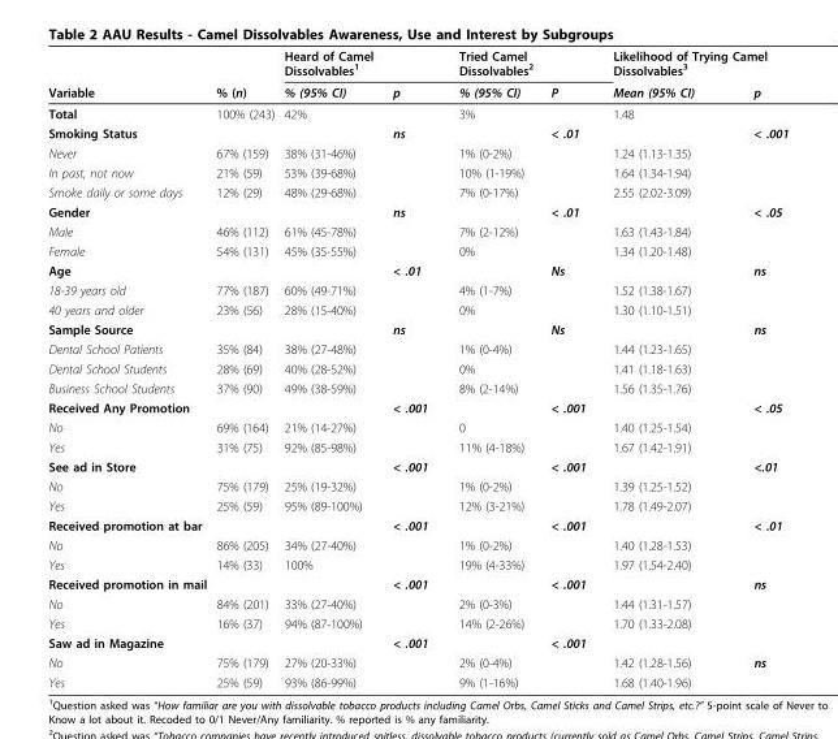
<table><thead><tr><td rowspan="2">Variable</td><td rowspan="2">% (n)</td><td colspan="2">Heard of Camel Dissolvables<sup>1</sup></td><td colspan="2">Tried Camel Dissolvables<sup>2</sup></td><td colspan="2">Likelihood of Trying Camel Dissolvables<sup>3</sup></td></tr><tr><td>% (95% CI)</td><td>p</td><td>% (95% CI)</td><td>P</td><td>Mean (95% CI)</td><td>p</td></tr></thead><tbody><tr><td>Total</td><td>100% (243)</td><td>42%</td><td></td><td>3%</td><td></td><td>1.48</td><td></td></tr><tr><td>Smoking Status</td><td></td><td></td><td>ns</td><td></td><td>&lt; .01</td><td></td><td>&lt; .001</td></tr><tr><td>Never</td><td>67% (159)</td><td>38% (31-46%)</td><td></td><td>1% (0-2%)</td><td></td><td>1.24 (1.13-1.35)</td><td></td></tr><tr><td>In past, not now</td><td>21% (59)</td><td>53% (39-68%)</td><td></td><td>10% (1-19%)</td><td></td><td>1.64 (1.34-1.94)</td><td></td></tr><tr><td>Smoke daily or some days</td><td>12% (29)</td><td>48% (29-68%)</td><td></td><td>7% (0-17%)</td><td></td><td>2.55 (2.02-3.09)</td><td></td></tr><tr><td>Gender</td><td></td><td></td><td>ns</td><td></td><td>&lt; .01</td><td></td><td>&lt; .05</td></tr><tr><td>Male</td><td>46% (112)</td><td>61% (45-78%)</td><td></td><td>7% (2-12%)</td><td></td><td>1.63 (1.43-1.84)</td><td></td></tr><tr><td>Female</td><td>54% (131)</td><td>45% (35-55%)</td><td></td><td>0%</td><td></td><td>1.34 (1.20-1.48)</td><td></td></tr><tr><td>Age</td><td></td><td></td><td>&lt; .01</td><td></td><td>Ns</td><td></td><td>ns</td></tr><tr><td>18-39 years old</td><td>77% (187)</td><td>60% (49-71%)</td><td></td><td>4% (1-7%)</td><td></td><td>1.52 (1.38-1.67)</td><td></td></tr><tr><td>40 years and older</td><td>23% (56)</td><td>28% (15-40%)</td><td></td><td>0%</td><td></td><td>1.30 (1.10-1.51)</td><td></td></tr><tr><td>Sample Source</td><td></td><td></td><td>ns</td><td></td><td>Ns</td><td></td><td>ns</td></tr><tr><td>Dental School Patients</td><td>35% (84)</td><td>38% (27-48%)</td><td></td><td>1% (0-4%)</td><td></td><td>1.44 (1.23-1.65)</td><td></td></tr><tr><td>Dental School Students</td><td>28% (69)</td><td>40% (28-52%)</td><td></td><td>0%</td><td></td><td>1.41 (1.18-1.63)</td><td></td></tr><tr><td>Business School Students</td><td>37% (90)</td><td>49% (38-59%)</td><td></td><td>8% (2-14%)</td><td></td><td>1.56 (1.35-1.76)</td><td></td></tr><tr><td>Received Any Promotion</td><td></td><td></td><td>&lt; .001</td><td></td><td>&lt; .001</td><td></td><td>&lt; .05</td></tr><tr><td>No</td><td>69% (164)</td><td>21% (14-27%)</td><td></td><td>0</td><td></td><td>1.40 (1.25-1.54)</td><td></td></tr><tr><td>Yes</td><td>31% (75)</td><td>92% (85-98%)</td><td></td><td>11% (4-18%)</td><td></td><td>1.67 (1.42-1.91)</td><td></td></tr><tr><td>See ad in Store</td><td></td><td></td><td>&lt; .001</td><td></td><td>&lt; .001</td><td></td><td>&lt;.01</td></tr><tr><td>No</td><td>75% (179)</td><td>25% (19-32%)</td><td></td><td>1% (0-2%)</td><td></td><td>1.39 (1.25-1.52)</td><td></td></tr><tr><td>Yes</td><td>25% (59)</td><td>95% (89-100%)</td><td></td><td>12% (3-21%)</td><td></td><td>1.78 (1.49-2.07)</td><td></td></tr><tr><td>Received promotion at bar</td><td></td><td></td><td>&lt; .001</td><td></td><td>&lt; .001</td><td></td><td>&lt; .01</td></tr><tr><td>No</td><td>86% (205)</td><td>34% (27-40%)</td><td></td><td>1% (0-2%)</td><td></td><td>1.40 (1.28-1.53)</td><td></td></tr><tr><td>Yes</td><td>14% (33)</td><td>100%</td><td></td><td>19% (4-33%)</td><td></td><td>1.97 (1.54-2.40)</td><td></td></tr><tr><td>Received promotion in mail</td><td></td><td></td><td>&lt; .001</td><td></td><td>&lt; .001</td><td></td><td>ns</td></tr><tr><td>No</td><td>84% (201)</td><td>33% (27-40%)</td><td></td><td>2% (0-3%)</td><td></td><td>1.44 (1.31-1.57)</td><td></td></tr><tr><td>Yes</td><td>16% (37)</td><td>94% (87-100%)</td><td></td><td>14% (2-26%)</td><td></td><td>1.70 (1.33-2.08)</td><td></td></tr><tr><td>Saw ad in Magazine</td><td></td><td></td><td>&lt; .001</td><td></td><td>&lt; .001</td><td></td><td></td></tr><tr><td>No</td><td>75% (179)</td><td>27% (20-33%)</td><td></td><td>2% (0-4%)</td><td></td><td>1.42 (1.28-1.56)</td><td>ns</td></tr><tr><td>Yes</td><td>25% (59)</td><td>93% (86-99%)</td><td></td><td>9% (1-16%)</td><td></td><td>1.68 (1.40-1.96)</td><td></td></tr></tbody></table>